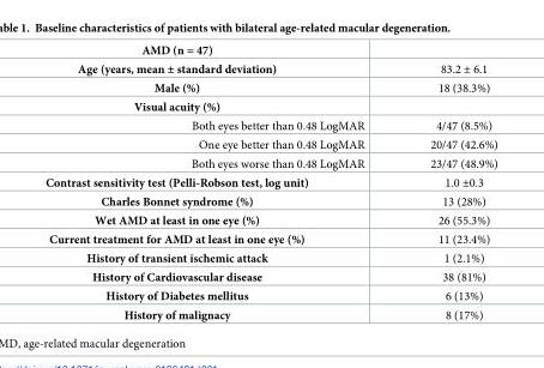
<table><thead><tr><td>AMD (n = 47)</td><td></td></tr></thead><tbody><tr><td>Age (years, mean ± standard deviation)</td><td>83.2 ± 6.1</td></tr><tr><td>Male (%)</td><td>18 (38.3%)</td></tr><tr><td colspan="2">Visual acuity (%)</td></tr><tr><td>Both eyes better than 0.48 LogMAR</td><td>4/47 (8.5%)</td></tr><tr><td>One eye better than 0.48 LogMAR</td><td>20/47 (42.6%)</td></tr><tr><td>Both eyes worse than 0.48 LogMAR</td><td>23/47 (48.9%)</td></tr><tr><td>Contrast sensitivity test (Pelli-Robson test, log unit)</td><td>1.0 ±0.3</td></tr><tr><td>Charles Bonnet syndrome (%)</td><td>13 (28%)</td></tr><tr><td>Wet AMD at least in one eye (%)</td><td>26 (55.3%)</td></tr><tr><td>Current treatment for AMD at least in one eye (%)</td><td>11 (23.4%)</td></tr><tr><td>History of transient ischemic attack</td><td>1 (2.1%)</td></tr><tr><td>History of Cardiovascular disease</td><td>38 (81%)</td></tr><tr><td>History of Diabetes mellitus</td><td>6 (13%)</td></tr><tr><td>History of malignacy</td><td>8 (17%)</td></tr></tbody></table>